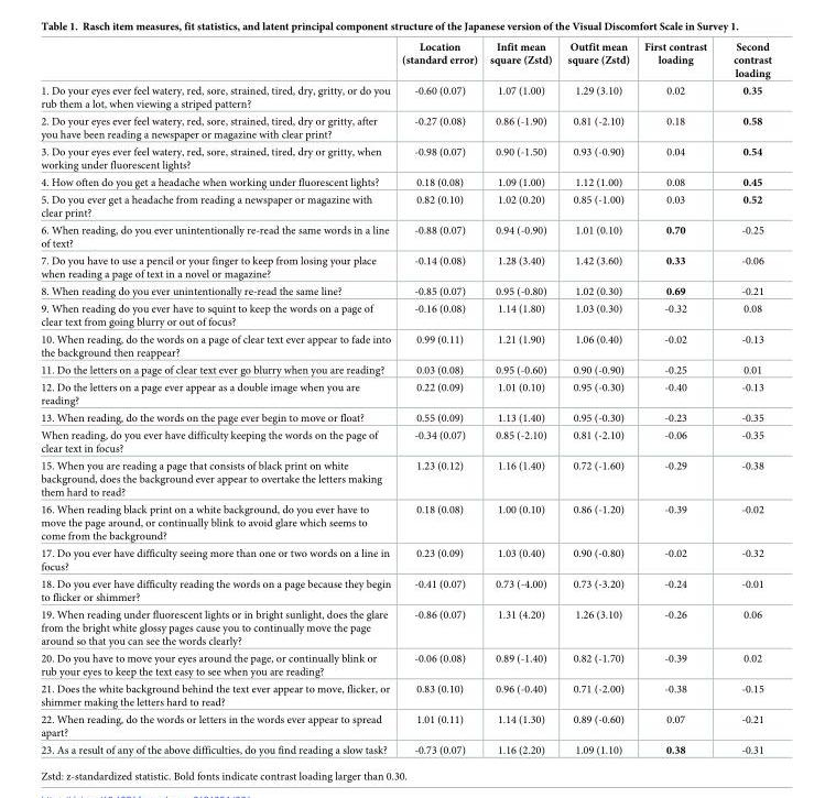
<table><thead><tr><td></td><td>Location (standard error)</td><td>Infit mean square (Zstd)</td><td>Outfit mean square (Zstd)</td><td>First contrast loading</td><td>Second contrast loading</td></tr></thead><tbody><tr><td>1. Do your eyes ever feel watery, red, sore, strained, tired, dry, gritty, or do you rub them a lot, when viewing a striped pattern?</td><td>-0.60 (0.07)</td><td>1.07 (1.00)</td><td>1.29 (3.10)</td><td>0.02</td><td>0.35</td></tr><tr><td>2. Do your eyes ever feel watery, red, sore, strained, tired, dry or gritty, after you have been reading a newspaper or magazine with clear print?</td><td>-0.27 (0.08)</td><td>0.86 (-1.90)</td><td>0.81 (-2.10)</td><td>0.18</td><td>0.58</td></tr><tr><td>3. Do your eyes ever feel watery, red, sore, strained, tired, dry or gritty, when working under fluorescent lights?</td><td>-0.98 (0.07)</td><td>0.90 (-1.50)</td><td>0.93 (-0.90)</td><td>0.04</td><td>0.54</td></tr><tr><td>4. How often do you get a headache when working under fluorescent lights?</td><td>0.18 (0.08)</td><td>1.09 (1.00)</td><td>1.12 (1.00)</td><td>0.08</td><td>0.45</td></tr><tr><td>5. Do you ever get a headache from reading a newspaper or magazine with clear print?</td><td>0.82 (0.10)</td><td>1.02 (0.20)</td><td>0.85 (-1.00)</td><td>0.03</td><td>0.52</td></tr><tr><td>6. When reading, do you ever unintentionally re-read the same words in a line of text?</td><td>-0.88 (0.07)</td><td>0.94 (-0.90)</td><td>1.01 (0.10)</td><td>0.70</td><td>-0.25</td></tr><tr><td>7. Do you have to use a pencil or your finger to keep from losing your place when reading a page of text in a novel or magazine?</td><td>-0.14 (0.08)</td><td>1.28 (3.40)</td><td>1.42 (3.60)</td><td>0.33</td><td>-0.06</td></tr><tr><td>8. When reading do you ever unintentionally re-read the same line?</td><td>-0.85 (0.07)</td><td>0.95 (-0.80)</td><td>1.02 (0.30)</td><td>0.69</td><td>-0.21</td></tr><tr><td>9. When reading do you ever have to squint to keep the words on a page of clear text from going blurry or out of focus?</td><td>-0.16 (0.08)</td><td>1.14 (1.80)</td><td>1.03 (0.30)</td><td>-0.32</td><td>0.08</td></tr><tr><td>10. When reading, do the words on a page of clear text ever appear to fade into the background then reappear?</td><td>0.99 (0.11)</td><td>1.21 (1.90)</td><td>1.06 (0.40)</td><td>-0.02</td><td>-0.13</td></tr><tr><td>11. Do the letters on a page of clear text ever go blurry when you are reading?</td><td>0.03 (0.08)</td><td>0.95 (-0.60)</td><td>0.90 (-0.90)</td><td>-0.25</td><td>0.01</td></tr><tr><td>12. Do the letters on a page ever appear as a double image when you are reading?</td><td>0.22 (0.09)</td><td>1.01 (0.10)</td><td>0.95 (-0.30)</td><td>-0.40</td><td>-0.13</td></tr><tr><td>13. When reading, do the words on the page ever begin to move or float?</td><td>0.55 (0.09)</td><td>1.13 (1.40)</td><td>0.95 (-0.30)</td><td>-0.23</td><td>-0.35</td></tr><tr><td>When reading, do you ever have difficulty keeping the words on the page of clear text in focus?</td><td>-0.34 (0.07)</td><td>0.85 (-2.10)</td><td>0.81 (-2.10)</td><td>-0.06</td><td>-0.35</td></tr><tr><td>15. When you are reading a page that consists of black print on white background, does the background ever appear to overtake the letters making them hard to read?</td><td>1.23 (0.12)</td><td>1.16 (1.40)</td><td>0.72 (-1.60)</td><td>-0.29</td><td>-0.38</td></tr><tr><td>16. When reading black print on a white background, do you ever have to move the page around, or continually blink to avoid glare which seems to come from the background?</td><td>0.18 (0.08)</td><td>1.00 (0.10)</td><td>0.86 (-1.20)</td><td>-0.39</td><td>-0.02</td></tr><tr><td>17. Do you ever have difficulty seeing more than one or two words on a line in focus?</td><td>0.23 (0.09)</td><td>1.03 (0.40)</td><td>0.90 (-0.80)</td><td>-0.02</td><td>-0.32</td></tr><tr><td>18. Do you ever have difficulty reading the words on a page because they begin to flicker or shimmer?</td><td>-0.41 (0.07)</td><td>0.73 (-4.00)</td><td>0.73 (-3.20)</td><td>-0.24</td><td>-0.01</td></tr><tr><td>19. When reading under fluorescent lights or in bright sunlight, does the glare from the bright white glossy pages cause you to continually move the page around so that you can see the words clearly?</td><td>-0.86 (0.07)</td><td>1.31 (4.20)</td><td>1.26 (3.10)</td><td>-0.26</td><td>0.06</td></tr><tr><td>20. Do you have to move your eyes around the page, or continually blink or rub your eyes to keep the text easy to see when you are reading?</td><td>-0.06 (0.08)</td><td>0.89 (-1.40)</td><td>0.82 (-1.70)</td><td>-0.39</td><td>0.02</td></tr><tr><td>21. Does the white background behind the text ever appear to move, flicker, or shimmer making the letters hard to read?</td><td>0.83 (0.10)</td><td>0.96 (-0.40)</td><td>0.71 (-2.00)</td><td>-0.38</td><td>-0.15</td></tr><tr><td>22. When reading, do the words or letters in the words ever appear to spread apart?</td><td>1.01 (0.11)</td><td>1.14 (1.30)</td><td>0.89 (-0.60)</td><td>0.07</td><td>-0.21</td></tr><tr><td>23. As a result of any of the above difficulties, do you find reading a slow task?</td><td>-0.73 (0.07)</td><td>1.16 (2.20)</td><td>1.09 (1.10)</td><td>0.38</td><td>-0.31</td></tr></tbody></table>